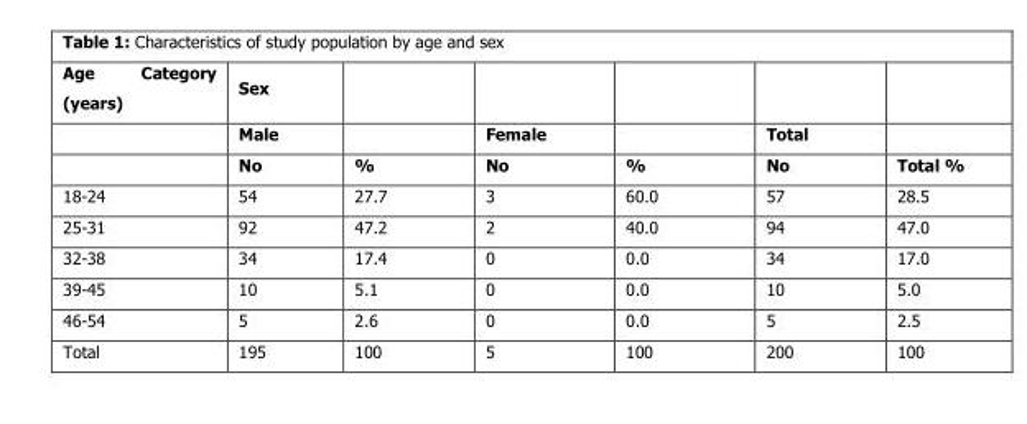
<table><thead><tr><td rowspan="3">Age Category (years)</td><td rowspan="3">Sex Male No</td><td rowspan="3">%</td><td rowspan="3">Female No</td><td rowspan="3">%</td><td rowspan="3">Total No</td><td rowspan="3">Total %</td></tr><tr></tr><tr></tr></thead><tbody><tr><td>18-24</td><td>54</td><td>27.7</td><td>3</td><td>60.0</td><td>57</td><td>28.5</td></tr><tr><td>25-31</td><td>92</td><td>47.2</td><td>2</td><td>40.0</td><td>94</td><td>47.0</td></tr><tr><td>32-38</td><td>34</td><td>17.4</td><td>0</td><td>0.0</td><td>34</td><td>17.0</td></tr><tr><td>39-45</td><td>10</td><td>5.1</td><td>0</td><td>0.0</td><td>10</td><td>5.0</td></tr><tr><td>46-54</td><td>5</td><td>2.6</td><td>0</td><td>0.0</td><td>5</td><td>2.5</td></tr><tr><td>Total</td><td>195</td><td>100</td><td>5</td><td>100</td><td>200</td><td>100</td></tr></tbody></table>